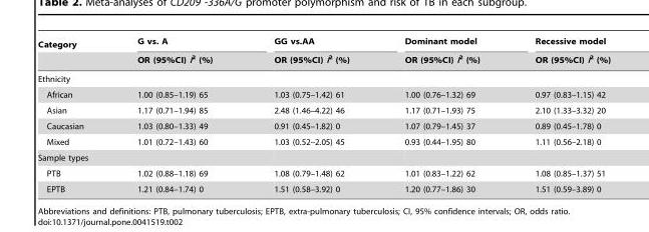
<table><thead><tr><td rowspan="2">Category</td><td rowspan="2">G vs. A OR (95%CI) I<sup>2</sup> (%)</td><td rowspan="2">GG vs.AA OR (95%CI) I<sup>2</sup> (%)</td><td rowspan="2">Dominant model OR (95%CI) I<sup>2</sup> (%)</td><td rowspan="2">Recessive model OR (95%CI) I<sup>2</sup> (%)</td></tr><tr></tr></thead><tbody><tr><td colspan="5">Ethnicity</td></tr><tr><td>African</td><td>1.00 (0.85–1.19) 65</td><td>1.03 (0.75–1.42) 61</td><td>1.00 (0.76–1.32) 69</td><td>0.97 (0.83–1.15) 42</td></tr><tr><td>Asian</td><td>1.17 (0.71–1.94) 85</td><td>2.48 (1.46–4.22) 46</td><td>1.17 (0.71–1.93) 75</td><td>2.10 (1.33–3.32) 20</td></tr><tr><td>Caucasian</td><td>1.03 (0.80–1.33) 49</td><td>0.91 (0.45–1.82) 0</td><td>1.07 (0.79–1.45) 37</td><td>0.89 (0.45–1.78) 0</td></tr><tr><td>Mixed</td><td>1.01 (0.72–1.43) 60</td><td>1.03 (0.52–2.05) 45</td><td>0.93 (0.44–1.95) 80</td><td>1.11 (0.56–2.18) 0</td></tr><tr><td colspan="5">Sample types</td></tr><tr><td>PTB</td><td>1.02 (0.88–1.18) 69</td><td>1.08 (0.79–1.48) 62</td><td>1.01 (0.83–1.22) 62</td><td>1.08 (0.85–1.37) 51</td></tr><tr><td>EPTB</td><td>1.21 (0.84–1.74) 0</td><td>1.51 (0.58–3.92) 0</td><td>1.20 (0.77–1.86) 30</td><td>1.51 (0.59–3.89) 0</td></tr></tbody></table>